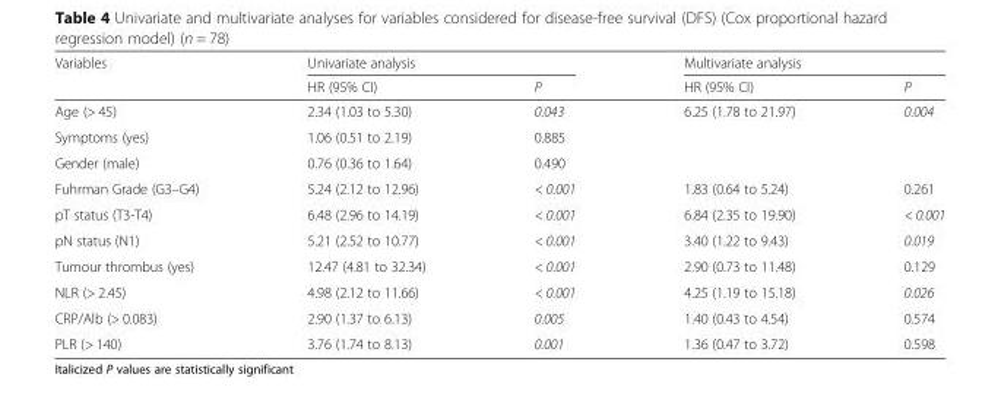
<table><thead><tr><td rowspan="2">Variables</td><td colspan="2">Univariate analysis</td><td colspan="2">Multivariate analysis</td></tr><tr><td>HR (95% CI)</td><td>P</td><td>HR (95% CI)</td><td>P</td></tr></thead><tbody><tr><td>Age (&gt; 45)</td><td>2.34 (1.03 to 5.30)</td><td>0.043</td><td>6.25 (1.78 to 21.97)</td><td>0.004</td></tr><tr><td>Symptoms (yes)</td><td>1.06 (0.51 to 2.19)</td><td>0.885</td><td></td><td></td></tr><tr><td>Gender (male)</td><td>0.76 (0.36 to 1.64)</td><td>0.490</td><td></td><td></td></tr><tr><td>Fuhrman Grade (G3–G4)</td><td>5.24 (2.12 to 12.96)</td><td>&lt; 0.001</td><td>1.83 (0.64 to 5.24)</td><td>0.261</td></tr><tr><td>pT status (T3-T4)</td><td>6.48 (2.96 to 14.19)</td><td>&lt; 0.001</td><td>6.84 (2.35 to 19.90)</td><td>&lt; 0.001</td></tr><tr><td>pN status (N1)</td><td>5.21 (2.52 to 10.77)</td><td>&lt; 0.001</td><td>3.40 (1.22 to 9.43)</td><td>0.019</td></tr><tr><td>Tumour thrombus (yes)</td><td>12.47 (4.81 to 32.34)</td><td>&lt; 0.001</td><td>2.90 (0.73 to 11.48)</td><td>0.129</td></tr><tr><td>NLR (&gt; 2.45)</td><td>4.98 (2.12 to 11.66)</td><td>&lt; 0.001</td><td>4.25 (1.19 to 15.18)</td><td>0.026</td></tr><tr><td>CRP/Alb (&gt; 0.083)</td><td>2.90 (1.37 to 6.13)</td><td>0.005</td><td>1.40 (0.43 to 4.54)</td><td>0.574</td></tr><tr><td>PLR (&gt; 140)</td><td>3.76 (1.74 to 8.13)</td><td>0.001</td><td>1.36 (0.47 to 3.72)</td><td>0.598</td></tr></tbody></table>